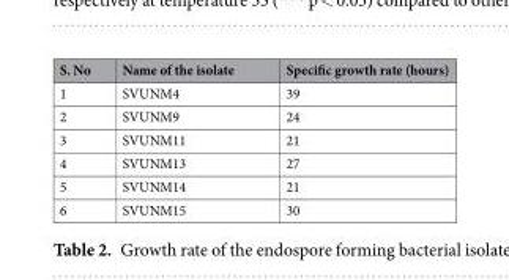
<table><thead><tr><td>S. No</td><td>Name of the isolate</td><td>Specific growth rate (hours)</td></tr></thead><tbody><tr><td>1</td><td>SVUNM4</td><td>39</td></tr><tr><td>2</td><td>SVUNM9</td><td>24</td></tr><tr><td>3</td><td>SVUNM11</td><td>21</td></tr><tr><td>4</td><td>SVUNM13</td><td>27</td></tr><tr><td>5</td><td>SVUNM14</td><td>21</td></tr><tr><td>6</td><td>SVUNM15</td><td>30</td></tr></tbody></table>